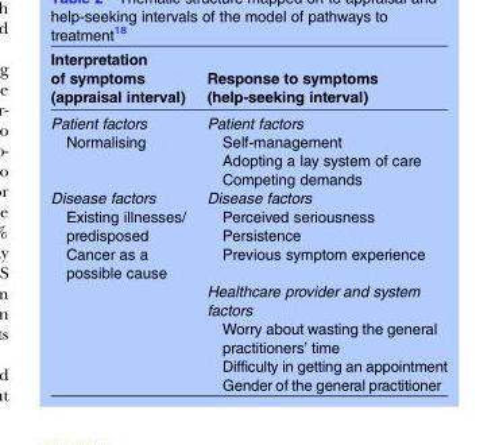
<table><thead><tr><td>Interpretation of symptoms (appraisal interval)</td><td>Response to symptoms (help-seeking interval)</td></tr></thead><tbody><tr><td>Patient factors Normalising</td><td>Patient factors Self-management Adopting a lay system of care Competing demands</td></tr><tr><td rowspan="2">Disease factors Existing illnesses/ predisposed Cancer as a possible cause</td><td>Disease factors Perceived seriousness Persistence Previous symptom experience</td></tr><tr><td>Healthcare provider and system factors Worry about wasting the general practitioners’ time Difficulty in getting an appointment Gender of the general practitioner</td></tr></tbody></table>